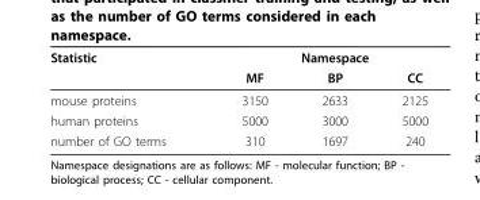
<table><thead><tr><td rowspan="2">Statistic</td><td colspan="3">Namespace</td></tr><tr><td>MF</td><td>BP</td><td>CC</td></tr></thead><tbody><tr><td>mouse proteins</td><td>3150</td><td>2633</td><td>2125</td></tr><tr><td>human proteins</td><td>5000</td><td>3000</td><td>5000</td></tr><tr><td>number of GO terms</td><td>310</td><td>1697</td><td>240</td></tr></tbody></table>